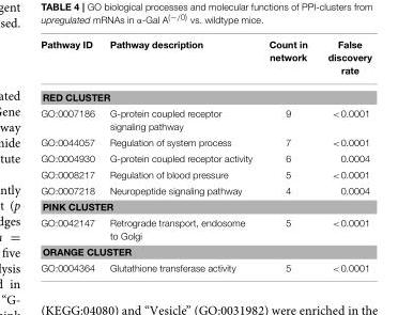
<table><thead><tr><td>Pathway ID</td><td>Pathway description</td><td>Count in network</td><td>False discovery rate</td></tr></thead><tbody><tr><td colspan="4">RED CLUSTER</td></tr><tr><td>GO:0007186</td><td>G-protein coupled receptor signaling pathway</td><td>9</td><td>&lt;0.0001</td></tr><tr><td>GO:0044057</td><td>Regulation of system process</td><td>7</td><td>&lt;0.0001</td></tr><tr><td>GO:0004930</td><td>G-protein coupled receptor activity</td><td>6</td><td>0.0004</td></tr><tr><td>GO:0008217</td><td>Regulation of blood pressure</td><td>5</td><td>&lt;0.0001</td></tr><tr><td>GO:0007218</td><td>Neuropeptide signaling pathway</td><td>4</td><td>0.0004</td></tr><tr><td colspan="4">PINK CLUSTER</td></tr><tr><td>GO:0042147</td><td>Retrograde transport, endosome to Golgi</td><td>5</td><td>&lt;0.0001</td></tr><tr><td colspan="4">ORANGE CLUSTER</td></tr><tr><td>GO:0004364</td><td>Glutathione transferase activity</td><td>5</td><td>&lt;0.0001</td></tr></tbody></table>